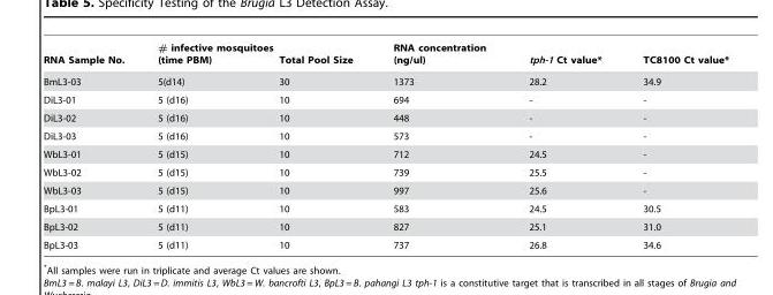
<table><thead><tr><td>RNA Sample No.</td><td># infective mosquitoes (time PBM)</td><td>Total Pool Size</td><td>RNA concentration (ng/ul)</td><td>tph-1 Ct value*</td><td>TC8100 Ct value*</td></tr></thead><tbody><tr><td>BmL3-03</td><td>5(d14)</td><td>30</td><td>1373</td><td>28.2</td><td>34.9</td></tr><tr><td>DiL3-01</td><td>5 (d16)</td><td>10</td><td>694</td><td>-</td><td>-</td></tr><tr><td>DiL3-02</td><td>5 (d16)</td><td>10</td><td>448</td><td>-</td><td>-</td></tr><tr><td>DiL3-03</td><td>5 (d16)</td><td>10</td><td>573</td><td>-</td><td>-</td></tr><tr><td>WbL3-01</td><td>5 (d15)</td><td>10</td><td>712</td><td>24.5</td><td>-</td></tr><tr><td>WbL3-02</td><td>5 (d15)</td><td>10</td><td>739</td><td>25.5</td><td>-</td></tr><tr><td>WbL3-03</td><td>5 (d15)</td><td>10</td><td>997</td><td>25.6</td><td>-</td></tr><tr><td>BpL3-01</td><td>5 (d11)</td><td>10</td><td>583</td><td>24.5</td><td>30.5</td></tr><tr><td>BpL3-02</td><td>5 (d11)</td><td>10</td><td>827</td><td>25.1</td><td>31.0</td></tr><tr><td>BpL3-03</td><td>5 (d11)</td><td>10</td><td>737</td><td>26.8</td><td>34.6</td></tr></tbody></table>